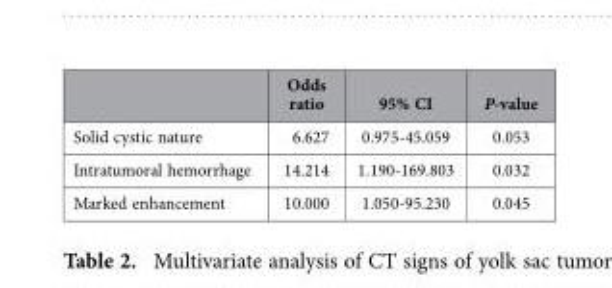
<table><thead><tr><td></td><td>Odds ratio</td><td>95% CI</td><td>P-value</td></tr></thead><tbody><tr><td>Solid cystic nature</td><td>6.627</td><td>0.975-45.059</td><td>0.053</td></tr><tr><td>Intratumoral hemorrhage</td><td>14.214</td><td>1.190-169.803</td><td>0.032</td></tr><tr><td>Marked enhancement</td><td>10.000</td><td>1.050-95.230</td><td>0.045</td></tr></tbody></table>